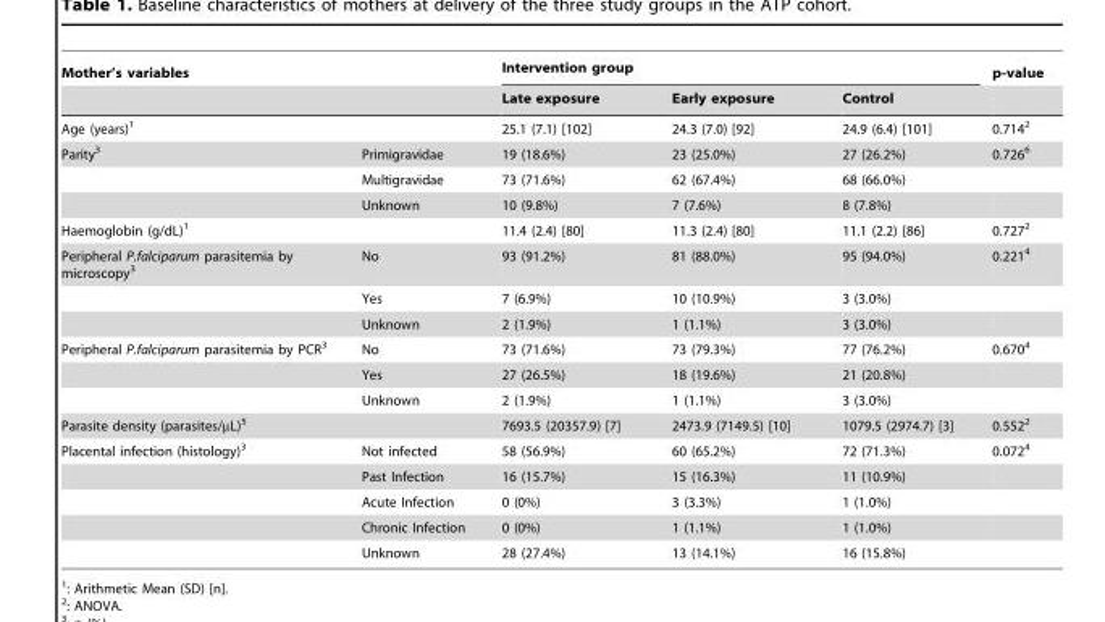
<table><thead><tr><td colspan="2">Mother’s variables</td><td colspan="3">Intervention group</td><td rowspan="2">p-value</td></tr><tr><td></td><td></td><td>Late exposure</td><td>Early exposure</td><td>Control</td></tr></thead><tbody><tr><td colspan="2">Age (years)<sup>1</sup></td><td>25.1 (7.1) [102]</td><td>24.3 (7.0) [92]</td><td>24.9 (6.4) [101]</td><td>0.714<sup>2</sup></td></tr><tr><td rowspan="3">Parity<sup>3</sup></td><td>Primigravidae</td><td>19 (18.6%)</td><td>23 (25.0%)</td><td>27 (26.2%)</td><td>0.726<sup>6</sup></td></tr><tr><td>Multigravidae</td><td>73 (71.6%)</td><td>62 (67.4%)</td><td>68 (66.0%)</td><td></td></tr><tr><td>Unknown</td><td>10 (9.8%)</td><td>7 (7.6%)</td><td>8 (7.8%)</td><td></td></tr><tr><td colspan="2">Haemoglobin (g/dL)<sup>1</sup></td><td>11.4 (2.4) [80]</td><td>11.3 (2.4) [80]</td><td>11.1 (2.2) [86]</td><td>0.727<sup>2</sup></td></tr><tr><td rowspan="3">Peripheral P.falciparum parasitemia by microscopy<sup>3</sup></td><td>No</td><td>93 (91.2%)</td><td>81 (88.0%)</td><td>95 (94.0%)</td><td>0.221<sup>4</sup></td></tr><tr><td>Yes</td><td>7 (6.9%)</td><td>10 (10.9%)</td><td>3 (3.0%)</td><td></td></tr><tr><td>Unknown</td><td>2 (1.9%)</td><td>1 (1.1%)</td><td>3 (3.0%)</td><td></td></tr><tr><td rowspan="3">Peripheral P.falciparum parasitemia by PCR<sup>3</sup></td><td>No</td><td>73 (71.6%)</td><td>73 (79.3%)</td><td>77 (76.2%)</td><td>0.670<sup>4</sup></td></tr><tr><td>Yes</td><td>27 (26.5%)</td><td>18 (19.6%)</td><td>21 (20.8%)</td><td></td></tr><tr><td>Unknown</td><td>2 (1.9%)</td><td>1 (1.1%)</td><td>3 (3.0%)</td><td></td></tr><tr><td colspan="2">Parasite density (parasites/µL)<sup>5</sup></td><td>7693.5 (20357.9) [7]</td><td>2473.9 (7149.5) [10]</td><td>1079.5 (2974.7) [3]</td><td>0.552<sup>2</sup></td></tr><tr><td rowspan="5">Placental infection (histology)<sup>3</sup></td><td>Not infected</td><td>58 (56.9%)</td><td>60 (65.2%)</td><td>72 (71.3%)</td><td>0.072<sup>4</sup></td></tr><tr><td>Past Infection</td><td>16 (15.7%)</td><td>15 (16.3%)</td><td>11 (10.9%)</td><td></td></tr><tr><td>Acute Infection</td><td>0 (0%)</td><td>3 (3.3%)</td><td>1 (1.0%)</td><td></td></tr><tr><td>Chronic Infection</td><td>0 (0%)</td><td>1 (1.1%)</td><td>1 (1.0%)</td><td></td></tr><tr><td>Unknown</td><td>28 (27.4%)</td><td>13 (14.1%)</td><td>16 (15.8%)</td><td></td></tr></tbody></table>